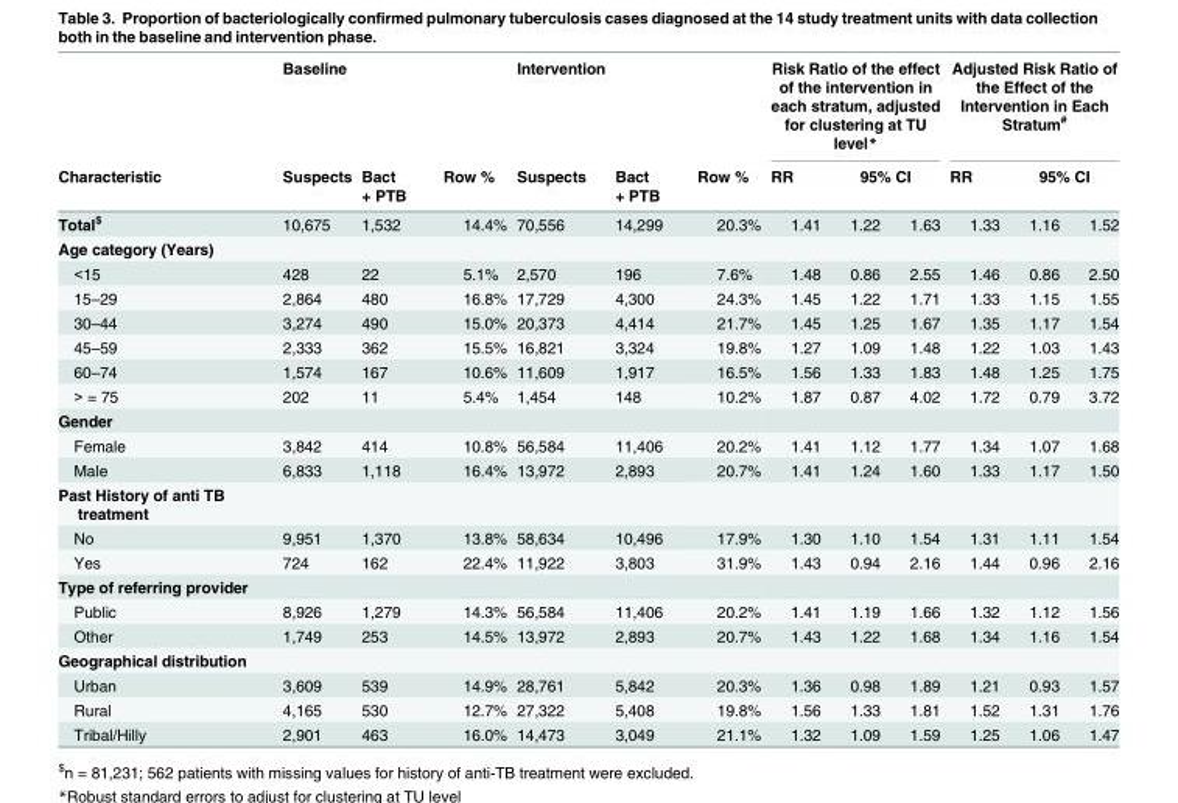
<table><thead><tr><td rowspan="3">Characteristic Total<sup>$</sup></td><td rowspan="3">Baseline Suspects 10,675</td><td rowspan="3">Bact + PTB 1,532</td><td rowspan="3">Row % 14.4%</td><td rowspan="3">Intervention Suspects 70,556</td><td rowspan="3">Bact + PTB 14,299</td><td rowspan="3">Row % 20.3%</td><td colspan="3">Risk Ratio of the effect of the intervention in each stratum, adjusted for clustering at TU level*</td><td colspan="3">Adjusted Risk Ratio of the Effect of the Intervention in Each Stratum<sup>#</sup></td></tr><tr><td rowspan="2">RR 1.41</td><td colspan="2">95% CI</td><td rowspan="2">RR 1.33</td><td colspan="2">95% CI</td></tr><tr><td>1.22</td><td>1.63</td><td>1.16</td><td>1.52</td></tr></thead><tbody><tr><td colspan="13">Age category (Years)</td></tr><tr><td>&lt;15</td><td>428</td><td>22</td><td>5.1%</td><td>2,570</td><td>196</td><td>7.6%</td><td>1.48</td><td>0.86</td><td>2.55</td><td>1.46</td><td>0.86</td><td>2.50</td></tr><tr><td>15–29</td><td>2,864</td><td>480</td><td>16.8%</td><td>17,729</td><td>4,300</td><td>24.3%</td><td>1.45</td><td>1.22</td><td>1.71</td><td>1.33</td><td>1.15</td><td>1.55</td></tr><tr><td>30–44</td><td>3,274</td><td>490</td><td>15.0%</td><td>20,373</td><td>4,414</td><td>21.7%</td><td>1.45</td><td>1.25</td><td>1.67</td><td>1.35</td><td>1.17</td><td>1.54</td></tr><tr><td>45–59</td><td>2,333</td><td>362</td><td>15.5%</td><td>16,821</td><td>3,324</td><td>19.8%</td><td>1.27</td><td>1.09</td><td>1.48</td><td>1.22</td><td>1.03</td><td>1.43</td></tr><tr><td>60–74</td><td>1,574</td><td>167</td><td>10.6%</td><td>11,609</td><td>1,917</td><td>16.5%</td><td>1.56</td><td>1.33</td><td>1.83</td><td>1.48</td><td>1.25</td><td>1.75</td></tr><tr><td>&gt; = 75</td><td>202</td><td>11</td><td>5.4%</td><td>1,454</td><td>148</td><td>10.2%</td><td>1.87</td><td>0.87</td><td>4.02</td><td>1.72</td><td>0.79</td><td>3.72</td></tr><tr><td colspan="13">Gender</td></tr><tr><td>Female</td><td>3,842</td><td>414</td><td>10.8%</td><td>56,584</td><td>11,406</td><td>20.2%</td><td>1.41</td><td>1.12</td><td>1.77</td><td>1.34</td><td>1.07</td><td>1.68</td></tr><tr><td>Male</td><td>6,833</td><td>1,118</td><td>16.4%</td><td>13,972</td><td>2,893</td><td>20.7%</td><td>1.41</td><td>1.24</td><td>1.60</td><td>1.33</td><td>1.17</td><td>1.50</td></tr><tr><td colspan="13">Past History of anti TB treatment</td></tr><tr><td>No</td><td>9,951</td><td>1,370</td><td>13.8%</td><td>58,634</td><td>10,496</td><td>17.9%</td><td>1.30</td><td>1.10</td><td>1.54</td><td>1.31</td><td>1.11</td><td>1.54</td></tr><tr><td>Yes</td><td>724</td><td>162</td><td>22.4%</td><td>11,922</td><td>3,803</td><td>31.9%</td><td>1.43</td><td>0.94</td><td>2.16</td><td>1.44</td><td>0.96</td><td>2.16</td></tr><tr><td colspan="13">Type of referring provider</td></tr><tr><td>Public</td><td>8,926</td><td>1,279</td><td>14.3%</td><td>56,584</td><td>11,406</td><td>20.2%</td><td>1.41</td><td>1.19</td><td>1.66</td><td>1.32</td><td>1.12</td><td>1.56</td></tr><tr><td>Other</td><td>1,749</td><td>253</td><td>14.5%</td><td>13,972</td><td>2,893</td><td>20.7%</td><td>1.43</td><td>1.22</td><td>1.68</td><td>1.34</td><td>1.16</td><td>1.54</td></tr><tr><td colspan="13">Geographical distribution</td></tr><tr><td>Urban</td><td>3,609</td><td>539</td><td>14.9%</td><td>28,761</td><td>5,842</td><td>20.3%</td><td>1.36</td><td>0.98</td><td>1.89</td><td>1.21</td><td>0.93</td><td>1.57</td></tr><tr><td>Rural</td><td>4,165</td><td>530</td><td>12.7%</td><td>27,322</td><td>5,408</td><td>19.8%</td><td>1.56</td><td>1.33</td><td>1.81</td><td>1.52</td><td>1.31</td><td>1.76</td></tr><tr><td>Tribal/Hilly</td><td>2,901</td><td>463</td><td>16.0%</td><td>14,473</td><td>3,049</td><td>21.1%</td><td>1.32</td><td>1.09</td><td>1.59</td><td>1.25</td><td>1.06</td><td>1.47</td></tr></tbody></table>